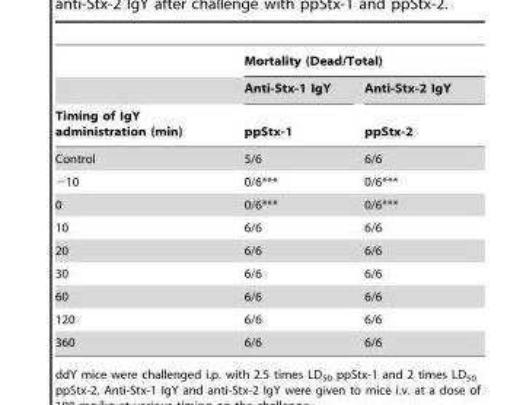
<table><thead><tr><td rowspan="3">Timing of IgY administration (min)</td><td colspan="2">Mortality (Dead/Total)</td></tr><tr><td rowspan="2">Anti-Stx-1 IgY ppStx-1</td><td rowspan="2">Anti-Stx-2 IgY ppStx-2</td></tr><tr></tr></thead><tbody><tr><td>Control</td><td>5/6</td><td>6/6</td></tr><tr><td>−10</td><td>0/6***</td><td>0/6***</td></tr><tr><td>0</td><td>0/6***</td><td>0/6***</td></tr><tr><td>10</td><td>6/6</td><td>6/6</td></tr><tr><td>20</td><td>6/6</td><td>6/6</td></tr><tr><td>30</td><td>6/6</td><td>6/6</td></tr><tr><td>60</td><td>6/6</td><td>6/6</td></tr><tr><td>120</td><td>6/6</td><td>6/6</td></tr><tr><td>360</td><td>6/6</td><td>6/6</td></tr></tbody></table>